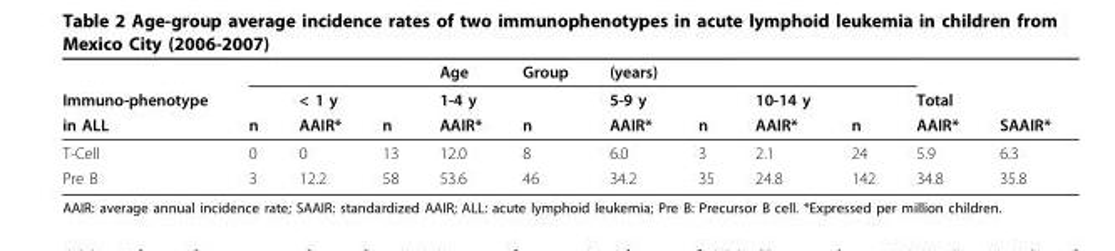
<table><thead><tr><td rowspan="3">Immuno-phenotype in ALL</td><td rowspan="3">n</td><td rowspan="3">&lt; 1 y AAIR*</td><td rowspan="3">n</td><td rowspan="3">Age 1-4 y AAIR*</td><td rowspan="3">Group n</td><td rowspan="3">(years) 5-9 y AAIR*</td><td rowspan="3">n</td><td rowspan="3">10-14 y AAIR*</td><td rowspan="3">n</td><td rowspan="3">Total AAIR*</td><td rowspan="3">SAAIR*</td></tr><tr></tr><tr></tr></thead><tbody><tr><td>T-Cell</td><td>0</td><td>0</td><td>13</td><td>12.0</td><td>8</td><td>6.0</td><td>3</td><td>2.1</td><td>24</td><td>5.9</td><td>6.3</td></tr><tr><td>Pre B</td><td>3</td><td>12.2</td><td>58</td><td>53.6</td><td>46</td><td>34.2</td><td>35</td><td>24.8</td><td>142</td><td>34.8</td><td>35.8</td></tr></tbody></table>